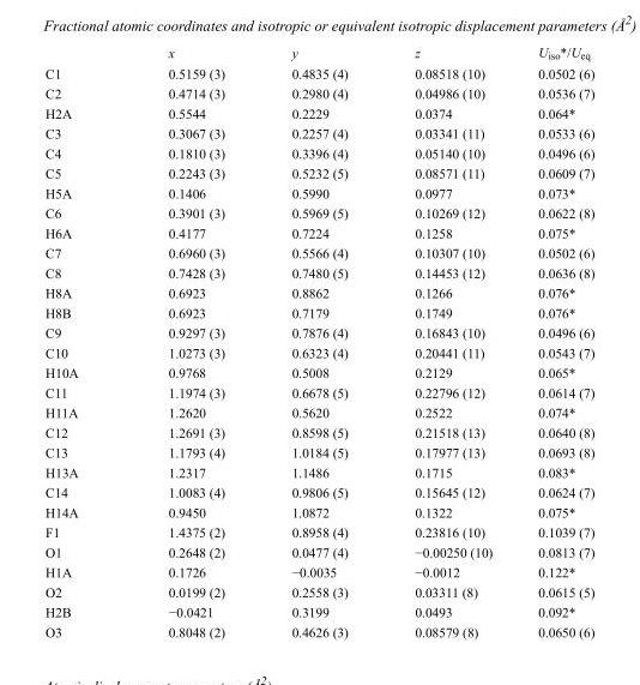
<table><thead><tr><td></td><td>x</td><td>y</td><td>z</td><td>U<sub>iso</sub>*/U<sub>eq</sub></td></tr></thead><tbody><tr><td>C1</td><td>0.5159 (3)</td><td>0.4835 (4)</td><td>0.08518 (10)</td><td>0.0502 (6)</td></tr><tr><td>C2</td><td>0.4714 (3)</td><td>0.2980 (4)</td><td>0.04986 (10)</td><td>0.0536 (7)</td></tr><tr><td>H2A</td><td>0.5544</td><td>0.2229</td><td>0.0374</td><td>0.064*</td></tr><tr><td>C3</td><td>0.3067 (3)</td><td>0.2257 (4)</td><td>0.03341 (11)</td><td>0.0533 (6)</td></tr><tr><td>C4</td><td>0.1810 (3)</td><td>0.3396 (4)</td><td>0.05140 (10)</td><td>0.0496 (6)</td></tr><tr><td>C5</td><td>0.2243 (3)</td><td>0.5232 (5)</td><td>0.08571 (11)</td><td>0.0609 (7)</td></tr><tr><td>H5A</td><td>0.1406</td><td>0.5990</td><td>0.0977</td><td>0.073*</td></tr><tr><td>C6</td><td>0.3901 (3)</td><td>0.5969 (5)</td><td>0.10269 (12)</td><td>0.0622 (8)</td></tr><tr><td>H6A</td><td>0.4177</td><td>0.7224</td><td>0.1258</td><td>0.075*</td></tr><tr><td>C7</td><td>0.6960 (3)</td><td>0.5566 (4)</td><td>0.10307 (10)</td><td>0.0502 (6)</td></tr><tr><td>C8</td><td>0.7428 (3)</td><td>0.7480 (5)</td><td>0.14453 (12)</td><td>0.0636 (8)</td></tr><tr><td>H8A</td><td>0.6923</td><td>0.8862</td><td>0.1266</td><td>0.076*</td></tr><tr><td>H8B</td><td>0.6923</td><td>0.7179</td><td>0.1749</td><td>0.076*</td></tr><tr><td>C9</td><td>0.9297 (3)</td><td>0.7876 (4)</td><td>0.16843 (10)</td><td>0.0496 (6)</td></tr><tr><td>C10</td><td>1.0273 (3)</td><td>0.6323 (4)</td><td>0.20441 (11)</td><td>0.0543 (7)</td></tr><tr><td>H10A</td><td>0.9768</td><td>0.5008</td><td>0.2129</td><td>0.065*</td></tr><tr><td>C11</td><td>1.1974 (3)</td><td>0.6678 (5)</td><td>0.22796 (12)</td><td>0.0614 (7)</td></tr><tr><td>H11A</td><td>1.2620</td><td>0.5620</td><td>0.2522</td><td>0.074*</td></tr><tr><td>C12</td><td>1.2691 (3)</td><td>0.8598 (5)</td><td>0.21518 (13)</td><td>0.0640 (8)</td></tr><tr><td>C13</td><td>1.1793 (4)</td><td>1.0184 (5)</td><td>0.17977 (13)</td><td>0.0693 (8)</td></tr><tr><td>H13A</td><td>1.2317</td><td>1.1486</td><td>0.1715</td><td>0.083*</td></tr><tr><td>C14</td><td>1.0083 (4)</td><td>0.9806 (5)</td><td>0.15645 (12)</td><td>0.0624 (7)</td></tr><tr><td>H14A</td><td>0.9450</td><td>1.0872</td><td>0.1322</td><td>0.075*</td></tr><tr><td>F1</td><td>1.4375 (2)</td><td>0.8958 (4)</td><td>0.23816 (10)</td><td>0.1039 (7)</td></tr><tr><td>O1</td><td>0.2648 (2)</td><td>0.0477 (4)</td><td>−0.00250 (10)</td><td>0.0813 (7)</td></tr><tr><td>H1A</td><td>0.1726</td><td>−0.0035</td><td>−0.0012</td><td>0.122*</td></tr><tr><td>O2</td><td>0.0199 (2)</td><td>0.2558 (3)</td><td>0.03311 (8)</td><td>0.0615 (5)</td></tr><tr><td>H2B</td><td>−0.0421</td><td>0.3199</td><td>0.0493</td><td>0.092*</td></tr><tr><td>O3</td><td>0.8048 (2)</td><td>0.4626 (3)</td><td>0.08579 (8)</td><td>0.0650 (6)</td></tr></tbody></table>